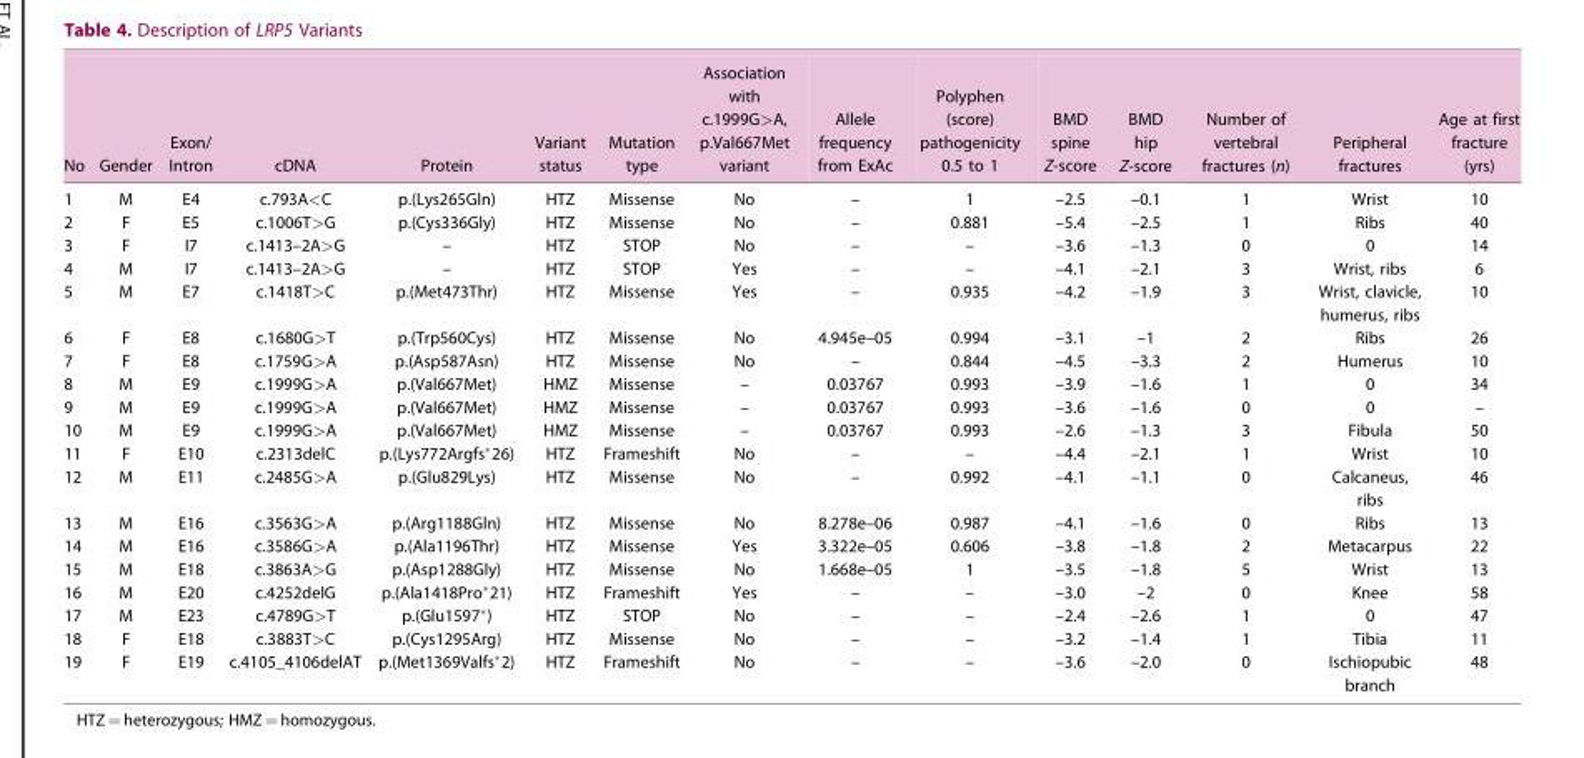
<table><thead><tr><td>No</td><td>Gender</td><td>Exon/ Intron</td><td>cDNA</td><td>Protein</td><td>Variant status</td><td>Mutation type</td><td>Association with c.1999G&gt;A, p.Val667Met variant</td><td>Allele frequency from ExAc</td><td>Polyphen (score) pathogenicity 0.5 to 1</td><td>BMD spine Z-score</td><td>BMD hip Z-score</td><td>Number of vertebral fractures (n)</td><td>Peripheral fractures</td><td>Age at first fracture (yrs)</td></tr></thead><tbody><tr><td>1</td><td>M</td><td>E4</td><td>c.793A&lt;C</td><td>p.(Lys265Gln)</td><td>HTZ</td><td>Missense</td><td>No</td><td>–</td><td>1</td><td>–2.5</td><td>–0.1</td><td>1</td><td>Wrist</td><td>10</td></tr><tr><td>2</td><td>F</td><td>E5</td><td>c.1006T&gt;G</td><td>p.(Cys336Gly)</td><td>HTZ</td><td>Missense</td><td>No</td><td>–</td><td>0.881</td><td>–5.4</td><td>–2.5</td><td>1</td><td>Ribs</td><td>40</td></tr><tr><td>3</td><td>F</td><td>I7</td><td>c.1413–2A&gt;G</td><td>–</td><td>HTZ</td><td>STOP</td><td>No</td><td>–</td><td>–</td><td>–3.6</td><td>–1.3</td><td>0</td><td>0</td><td>14</td></tr><tr><td>4</td><td>M</td><td>I7</td><td>c.1413–2A&gt;G</td><td>–</td><td>HTZ</td><td>STOP</td><td>Yes</td><td>–</td><td>–</td><td>–4.1</td><td>–2.1</td><td>3</td><td>Wrist, ribs</td><td>6</td></tr><tr><td>5</td><td>M</td><td>E7</td><td>c.1418T&gt;C</td><td>p.(Met473Thr)</td><td>HTZ</td><td>Missense</td><td>Yes</td><td>–</td><td>0.935</td><td>–4.2</td><td>–1.9</td><td>3</td><td>Wrist, clavicle, humerus, ribs</td><td>10</td></tr><tr><td>6</td><td>F</td><td>E8</td><td>c.1680G&gt;T</td><td>p.(Trp560Cys)</td><td>HTZ</td><td>Missense</td><td>No</td><td>4.945e–05</td><td>0.994</td><td>–3.1</td><td>–1</td><td>2</td><td>Ribs</td><td>26</td></tr><tr><td>7</td><td>F</td><td>E8</td><td>c.1759G&gt;A</td><td>p.(Asp587Asn)</td><td>HTZ</td><td>Missense</td><td>No</td><td>–</td><td>0.844</td><td>–4.5</td><td>–3.3</td><td>2</td><td>Humerus</td><td>10</td></tr><tr><td>8</td><td>M</td><td>E9</td><td>c.1999G&gt;A</td><td>p.(Val667Met)</td><td>HMZ</td><td>Missense</td><td>–</td><td>0.03767</td><td>0.993</td><td>–3.9</td><td>–1.6</td><td>1</td><td>0</td><td>34</td></tr><tr><td>9</td><td>M</td><td>E9</td><td>c.1999G&gt;A</td><td>p.(Val667Met)</td><td>HMZ</td><td>Missense</td><td>–</td><td>0.03767</td><td>0.993</td><td>–3.6</td><td>–1.6</td><td>0</td><td>0</td><td>–</td></tr><tr><td>10</td><td>M</td><td>E9</td><td>c.1999G&gt;A</td><td>p.(Val667Met)</td><td>HMZ</td><td>Missense</td><td>–</td><td>0.03767</td><td>0.993</td><td>–2.6</td><td>–1.3</td><td>3</td><td>Fibula</td><td>50</td></tr><tr><td>11</td><td>F</td><td>E10</td><td>c.2313delC</td><td>p.(Lys772Argfs*26)</td><td>HTZ</td><td>Frameshift</td><td>No</td><td>–</td><td>–</td><td>–4.4</td><td>–2.1</td><td>1</td><td>Wrist</td><td>10</td></tr><tr><td>12</td><td>M</td><td>E11</td><td>c.2485G&gt;A</td><td>p.(Glu829Lys)</td><td>HTZ</td><td>Missense</td><td>No</td><td>–</td><td>0.992</td><td>–4.1</td><td>–1.1</td><td>0</td><td>Calcaneus, ribs</td><td>46</td></tr><tr><td>13</td><td>M</td><td>E16</td><td>c.3563G&gt;A</td><td>p.(Arg1188Gln)</td><td>HTZ</td><td>Missense</td><td>No</td><td>8.278e–06</td><td>0.987</td><td>–4.1</td><td>–1.6</td><td>0</td><td>Ribs</td><td>13</td></tr><tr><td>14</td><td>M</td><td>E16</td><td>c.3586G&gt;A</td><td>p.(Ala1196Thr)</td><td>HTZ</td><td>Missense</td><td>Yes</td><td>3.322e–05</td><td>0.606</td><td>–3.8</td><td>–1.8</td><td>2</td><td>Metacarpus</td><td>22</td></tr><tr><td>15</td><td>M</td><td>E18</td><td>c.3863A&gt;G</td><td>p.(Asp1288Gly)</td><td>HTZ</td><td>Missense</td><td>No</td><td>1.668e–05</td><td>1</td><td>–3.5</td><td>–1.8</td><td>5</td><td>Wrist</td><td>13</td></tr><tr><td>16</td><td>M</td><td>E20</td><td>c.4252delG</td><td>p.(Ala1418Pro*21)</td><td>HTZ</td><td>Frameshift</td><td>Yes</td><td>–</td><td>–</td><td>–3.0</td><td>–2</td><td>0</td><td>Knee</td><td>58</td></tr><tr><td>17</td><td>M</td><td>E23</td><td>c.4789G&gt;T</td><td>p.(Glu1597*)</td><td>HTZ</td><td>STOP</td><td>No</td><td>–</td><td>–</td><td>–2.4</td><td>–2.6</td><td>1</td><td>0</td><td>47</td></tr><tr><td>18</td><td>F</td><td>E18</td><td>c.3883T&gt;C</td><td>p.(Cys1295Arg)</td><td>HTZ</td><td>Missense</td><td>No</td><td>–</td><td>–</td><td>–3.2</td><td>–1.4</td><td>1</td><td>Tibia</td><td>11</td></tr><tr><td>19</td><td>F</td><td>E19</td><td>c.4105_4106delAT</td><td>p.(Met1369Valfs*2)</td><td>HTZ</td><td>Frameshift</td><td>No</td><td>–</td><td>–</td><td>–3.6</td><td>–2.0</td><td>0</td><td>Ischiopubic branch</td><td>48</td></tr></tbody></table>